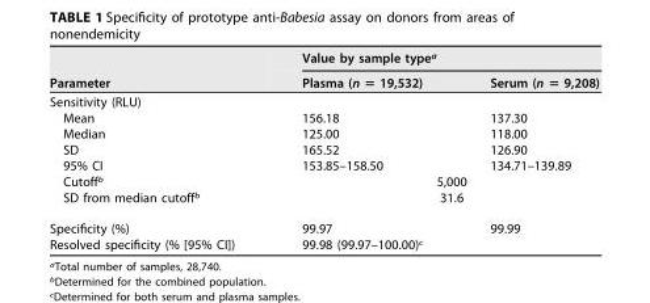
<table><thead><tr><td rowspan="2">Parameter</td><td colspan="2">Value by sample type<sup>a</sup></td></tr><tr><td>Plasma (n = 19,532)</td><td>Serum (n = 9,208)</td></tr></thead><tbody><tr><td colspan="3">Sensitivity (RLU)</td></tr><tr><td>Mean</td><td>156.18</td><td>137.30</td></tr><tr><td>Median</td><td>125.00</td><td>118.00</td></tr><tr><td>SD</td><td>165.52</td><td>126.90</td></tr><tr><td>95% CI</td><td>153.85–158.50</td><td>134.71–139.89</td></tr><tr><td>Cutoff<sup>b</sup></td><td colspan="2">5,000</td></tr><tr><td>SD from median cutoff<sup>b</sup></td><td colspan="2">31.6</td></tr><tr><td>Specificity (%)</td><td>99.97</td><td>99.99</td></tr><tr><td>Resolved specificity (% [95% CI])</td><td>99.98 (99.97–100.00)<sup>c</sup></td><td></td></tr></tbody></table>